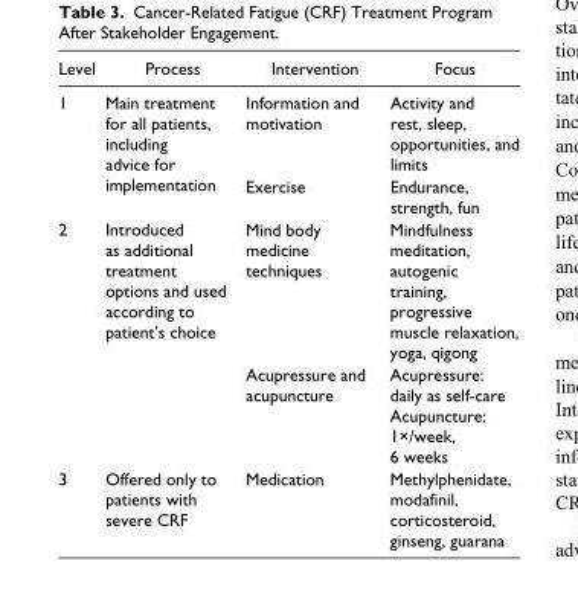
<table><thead><tr><td>Level</td><td>Process</td><td>Intervention</td><td>Focus</td></tr></thead><tbody><tr><td rowspan="2">1</td><td rowspan="2">Main treatment for all patients, including advice for implementation</td><td>Information and motivation</td><td>Activity and rest, sleep, opportunities, and limits</td></tr><tr><td>Exercise</td><td>Endurance, strength, fun</td></tr><tr><td rowspan="2">2</td><td rowspan="2">Introduced as additional treatment options and used according to patient’s choice</td><td>Mind body medicine techniques</td><td>Mindfulness meditation, autogenic training, progressive muscle relaxation, yoga, qigong</td></tr><tr><td>Acupressure and acupuncture</td><td>Acupressure: daily as self-care Acupuncture: 1×/week, 6 weeks</td></tr><tr><td>3</td><td>Offered only to patients with severe CRF</td><td>Medication</td><td>Methylphenidate, modafinil, corticosteroid, ginseng, guarana</td></tr></tbody></table>